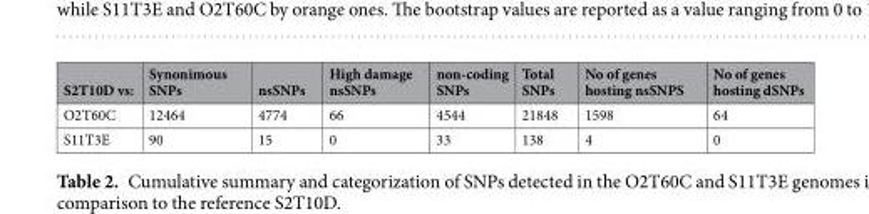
<table><thead><tr><td>S2T10D vs:</td><td>Synonimous SNPs</td><td>nsSNPs</td><td>High damage nsSNPs</td><td>non-coding SNPs</td><td>Total SNPs</td><td>No of genes hosting nsSNPS</td><td>No of genes hosting dSNPs</td></tr></thead><tbody><tr><td>O2T60C</td><td>12464</td><td>4774</td><td>66</td><td>4544</td><td>21848</td><td>1598</td><td>64</td></tr><tr><td>S11T3E</td><td>90</td><td>15</td><td>0</td><td>33</td><td>138</td><td>4</td><td>0</td></tr></tbody></table>